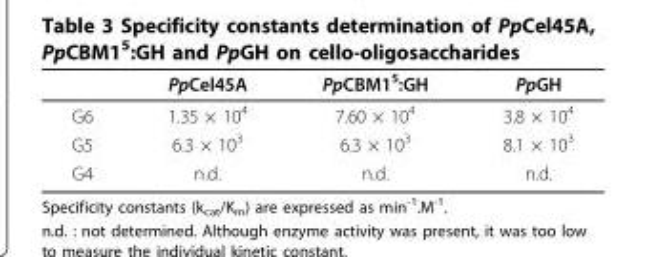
<table><thead><tr><td></td><td>PpCel45A</td><td>PpCBM1<sup>5</sup>:GH</td><td>PpGH</td></tr></thead><tbody><tr><td>G6</td><td>1.35 × 10<sup>4</sup></td><td>7.60 × 10<sup>4</sup></td><td>3.8 × 10<sup>4</sup></td></tr><tr><td>G5</td><td>6.3 × 10<sup>3</sup></td><td>6.3 × 10<sup>3</sup></td><td>8.1 × 10<sup>3</sup></td></tr><tr><td>G4</td><td>n.d.</td><td>n.d.</td><td>n.d.</td></tr></tbody></table>